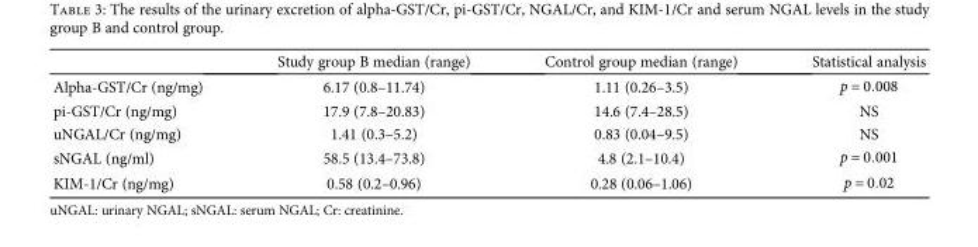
<table><thead><tr><td></td><td>Study group B median (range)</td><td>Control group median (range)</td><td>Statistical analysis</td></tr></thead><tbody><tr><td>Alpha-GST/Cr (ng/mg)</td><td>6.17 (0.8–11.74)</td><td>1.11 (0.26–3.5)</td><td>p = 0 008</td></tr><tr><td>pi-GST/Cr (ng/mg)</td><td>17.9 (7.8–20.83)</td><td>14.6 (7.4–28.5)</td><td>NS</td></tr><tr><td>uNGAL/Cr (ng/mg)</td><td>1.41 (0.3–5.2)</td><td>0.83 (0.04–9.5)</td><td>NS</td></tr><tr><td>sNGAL (ng/ml)</td><td>58.5 (13.4–73.8)</td><td>4.8 (2.1–10.4)</td><td>p = 0 001</td></tr><tr><td>KIM-1/Cr (ng/mg)</td><td>0.58 (0.2–0.96)</td><td>0.28 (0.06–1.06)</td><td>p = 0 02</td></tr></tbody></table>